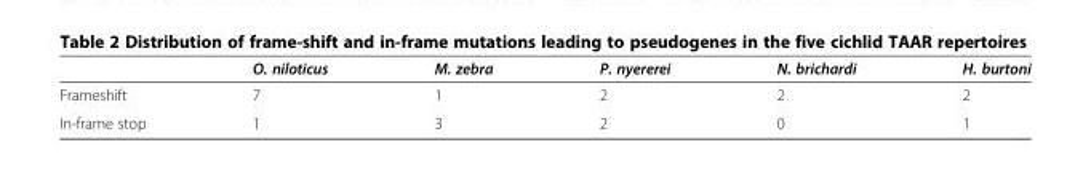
<table><thead><tr><td></td><td>O. niloticus</td><td>M. zebra</td><td>P. nyererei</td><td>N. brichardi</td><td>H. burtoni</td></tr></thead><tbody><tr><td>Frameshift</td><td>7</td><td>1</td><td>2</td><td>2</td><td>2</td></tr><tr><td>In-frame stop</td><td>1</td><td>3</td><td>2</td><td>0</td><td>1</td></tr></tbody></table>